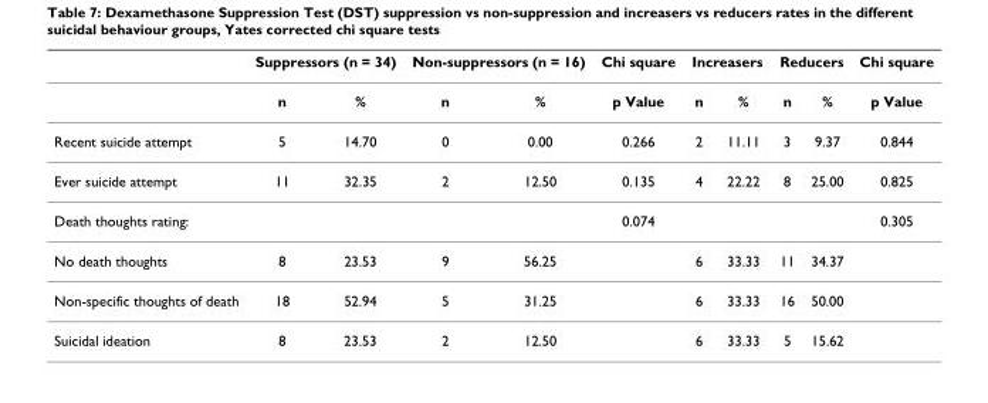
<table><thead><tr><td rowspan="2"></td><td colspan="2">Suppressors (n = 34)</td><td colspan="2">Non-suppressors (n = 16)</td><td rowspan="2">Chi square p Value</td><td colspan="2">Increasers</td><td colspan="2">Reducers</td><td rowspan="2">Chi square p Value</td></tr><tr><td>n</td><td>%</td><td>n</td><td>%</td><td>n</td><td>%</td><td>n</td><td>%</td></tr></thead><tbody><tr><td>Recent suicide attempt</td><td>5</td><td>14.70</td><td>0</td><td>0.00</td><td>0.266</td><td>2</td><td>11.11</td><td>3</td><td>9.37</td><td>0.844</td></tr><tr><td>Ever suicide attempt</td><td>11</td><td>32.35</td><td>2</td><td>12.50</td><td>0.135</td><td>4</td><td>22.22</td><td>8</td><td>25.00</td><td>0.825</td></tr><tr><td>Death thoughts rating:</td><td></td><td></td><td></td><td></td><td>0.074</td><td></td><td></td><td></td><td></td><td>0.305</td></tr><tr><td>No death thoughts</td><td>8</td><td>23.53</td><td>9</td><td>56.25</td><td></td><td>6</td><td>33.33</td><td>11</td><td>34.37</td><td></td></tr><tr><td>Non-specific thoughts of death</td><td>18</td><td>52.94</td><td>5</td><td>31.25</td><td></td><td>6</td><td>33.33</td><td>16</td><td>50.00</td><td></td></tr><tr><td>Suicidal ideation</td><td>8</td><td>23.53</td><td>2</td><td>12.50</td><td></td><td>6</td><td>33.33</td><td>5</td><td>15.62</td><td></td></tr></tbody></table>